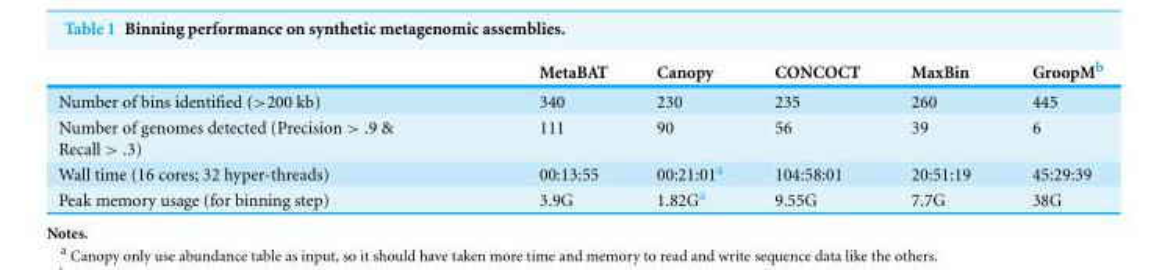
<table><thead><tr><td></td><td>MetaBAT</td><td>Canopy</td><td>CONCOCT</td><td>MaxBin</td><td>GroopM<sup>b</sup></td></tr></thead><tbody><tr><td>Number of bins identified (&gt;200 kb)</td><td>340</td><td>230</td><td>235</td><td>260</td><td>445</td></tr><tr><td>Number of genomes detected (Precision &gt; .9 &amp; Recall &gt; .3)</td><td>111</td><td>90</td><td>56</td><td>39</td><td>6</td></tr><tr><td>Wall time (16 cores; 32 hyper-threads)</td><td>00:13:55</td><td>00:21:01<sup>a</sup></td><td>104:58:01</td><td>20:51:19</td><td>45:29:39</td></tr><tr><td>Peak memory usage (for binning step)</td><td>3.9G</td><td>1.82G<sup>a</sup></td><td>9.55G</td><td>7.7G</td><td>38G</td></tr></tbody></table>